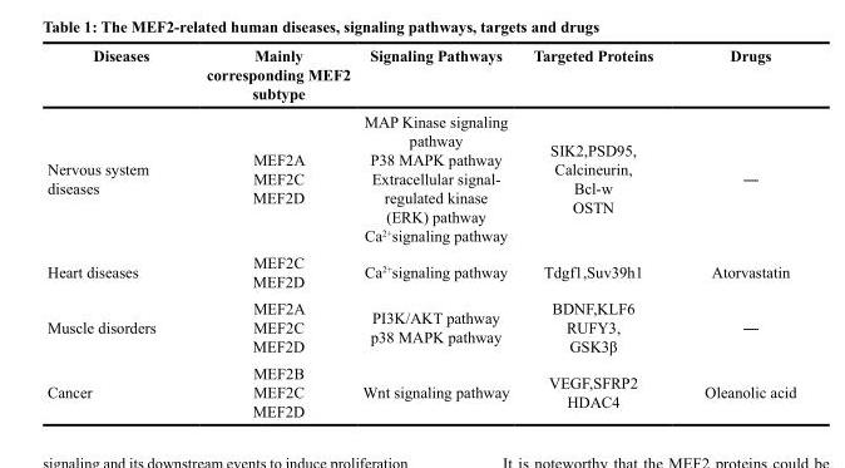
<table><thead><tr><td>Diseases</td><td>Mainly corresponding MEF2 subtype</td><td>Signaling Pathways</td><td>Targeted Proteins</td><td>Drugs</td></tr></thead><tbody><tr><td>Nervous system diseases</td><td>MEF2A MEF2C MEF2D</td><td>MAP Kinase signaling pathway P38 MAPK pathway Extracellular signal- regulated kinase (ERK) pathway Ca<sup>2+</sup>signaling pathway</td><td>SIK2,PSD95, Calcineurin, Bcl-w OSTN</td><td>―</td></tr><tr><td>Heart diseases</td><td>MEF2C MEF2D</td><td>Ca<sup>2+</sup>signaling pathway</td><td>Tdgf1,Suv39h1</td><td>Atorvastatin</td></tr><tr><td>Muscle disorders</td><td>MEF2A MEF2C MEF2D</td><td>PI3K/AKT pathway p38 MAPK pathway</td><td>BDNF,KLF6 RUFY3, GSK3β</td><td>―</td></tr><tr><td>Cancer</td><td>MEF2B MEF2C MEF2D</td><td>Wnt signaling pathway</td><td>VEGF,SFRP2 HDAC4</td><td>Oleanolic acid</td></tr></tbody></table>